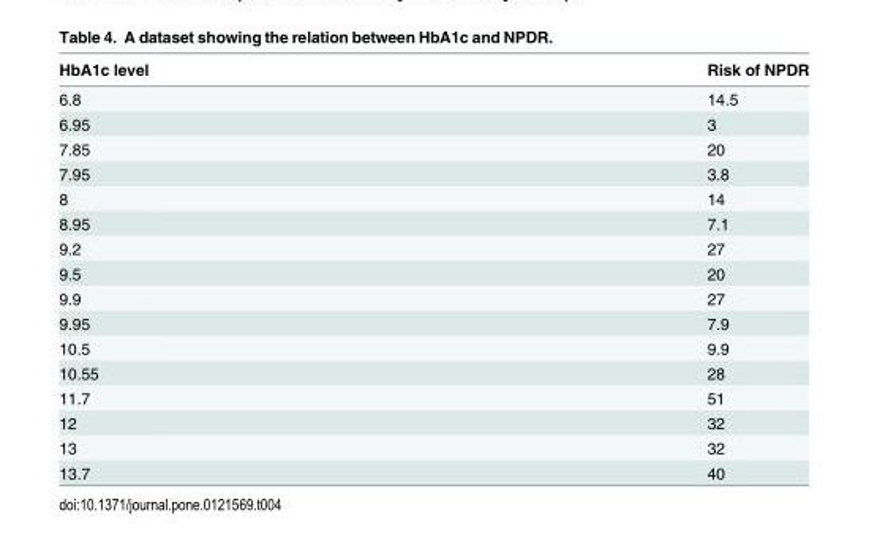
<table><thead><tr><td>HbA1c level</td><td>Risk of NPDR</td></tr></thead><tbody><tr><td>6.8</td><td>14.5</td></tr><tr><td>6.95</td><td>3</td></tr><tr><td>7.85</td><td>20</td></tr><tr><td>7.95</td><td>3.8</td></tr><tr><td>8</td><td>14</td></tr><tr><td>8.95</td><td>7.1</td></tr><tr><td>9.2</td><td>27</td></tr><tr><td>9.5</td><td>20</td></tr><tr><td>9.9</td><td>27</td></tr><tr><td>9.95</td><td>7.9</td></tr><tr><td>10.5</td><td>9.9</td></tr><tr><td>10.55</td><td>28</td></tr><tr><td>11.7</td><td>51</td></tr><tr><td>12</td><td>32</td></tr><tr><td>13</td><td>32</td></tr><tr><td>13.7</td><td>40</td></tr></tbody></table>